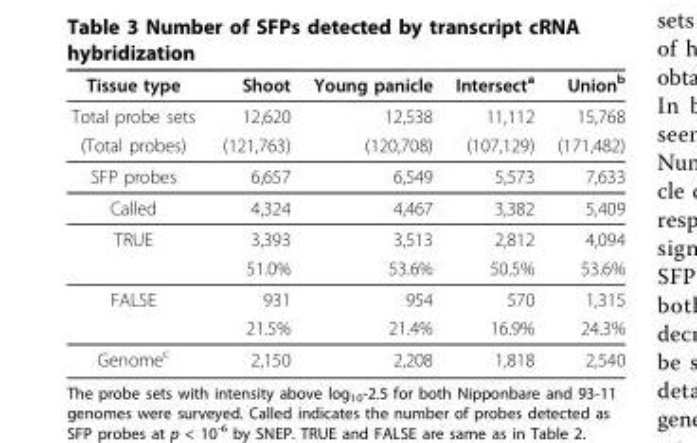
<table><thead><tr><td>Tissue type</td><td>Shoot</td><td>Young panicle</td><td>Intersect<sup>a</sup></td><td>Union<sup>b</sup></td></tr></thead><tbody><tr><td>Total probe sets</td><td>12,620</td><td>12,538</td><td>11,112</td><td>15,768</td></tr><tr><td>(Total probes)</td><td>(121,763)</td><td>(120,708)</td><td>(107,129)</td><td>(171,482)</td></tr><tr><td>SFP probes</td><td>6,657</td><td>6,549</td><td>5,573</td><td>7,633</td></tr><tr><td>Called</td><td>4,324</td><td>4,467</td><td>3,382</td><td>5,409</td></tr><tr><td rowspan="2">TRUE</td><td>3,393</td><td>3,513</td><td>2,812</td><td>4,094</td></tr><tr><td>51.0%</td><td>53.6%</td><td>50.5%</td><td>53.6%</td></tr><tr><td rowspan="2">FALSE</td><td>931</td><td>954</td><td>570</td><td>1,315</td></tr><tr><td>21.5%</td><td>21.4%</td><td>16.9%</td><td>24.3%</td></tr><tr><td>Genome<sup>c</sup></td><td>2,150</td><td>2,208</td><td>1,818</td><td>2,540</td></tr></tbody></table>